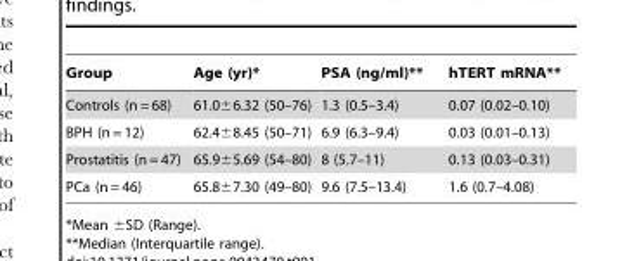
<table><thead><tr><td>Group</td><td>Age (yr)*</td><td>PSA (ng/ml)**</td><td>hTERT mRNA**</td></tr></thead><tbody><tr><td>Controls (n = 68)</td><td>61.0±6.32 (50–76)</td><td>1.3 (0.5–3.4)</td><td>0.07 (0.02–0.10)</td></tr><tr><td>BPH (n = 12)</td><td>62.4±8.45 (50–71)</td><td>6.9 (6.3–9.4)</td><td>0.03 (0.01–0.13)</td></tr><tr><td>Prostatitis (n = 47)</td><td>65.9±5.69 (54–80)</td><td>8 (5.7–11)</td><td>0.13 (0.03–0.31)</td></tr><tr><td>PCa (n = 46)</td><td>65.8±7.30 (49–80)</td><td>9.6 (7.5–13.4)</td><td>1.6 (0.7–4.08)</td></tr></tbody></table>